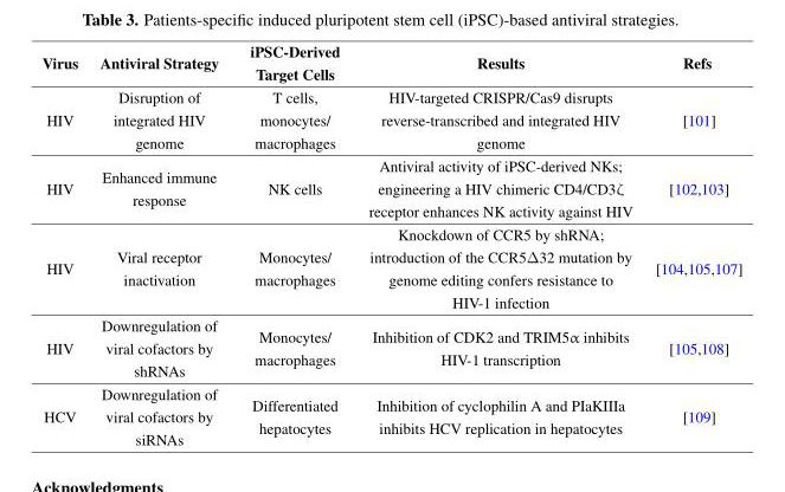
<table><thead><tr><td>Virus</td><td>Antiviral Strategy</td><td>iPSC-Derived Target Cells</td><td>Results</td><td>Refs</td></tr></thead><tbody><tr><td>HIV</td><td>Disruption of integrated HIV genome</td><td>T cells, monocytes/ macrophages</td><td>HIV-targeted CRISPR/Cas9 disrupts reverse-transcribed and integrated HIV genome</td><td>[101]</td></tr><tr><td>HIV</td><td>Enhanced immune response</td><td>NK cells</td><td>Antiviral activity of iPSC-derived NKs; engineering a HIV chimeric CD4/CD3ζ receptor enhances NK activity against HIV</td><td>[102,103]</td></tr><tr><td>HIV</td><td>Viral receptor inactivation</td><td>Monocytes/ macrophages</td><td>Knockdown of CCR5 by shRNA; introduction of the CCR5∆32 mutation by genome editing confers resistance to HIV-1 infection</td><td>[104,105,107]</td></tr><tr><td>HIV</td><td>Downregulation of viral cofactors by shRNAs</td><td>Monocytes/ macrophages</td><td>Inhibition of CDK2 and TRIM5α inhibits HIV-1 transcription</td><td>[105,108]</td></tr><tr><td>HCV</td><td>Downregulation of viral cofactors by siRNAs</td><td>Differentiated hepatocytes</td><td>Inhibition of cyclophilin A and PIaKIIIa inhibits HCV replication in hepatocytes</td><td>[109]</td></tr></tbody></table>